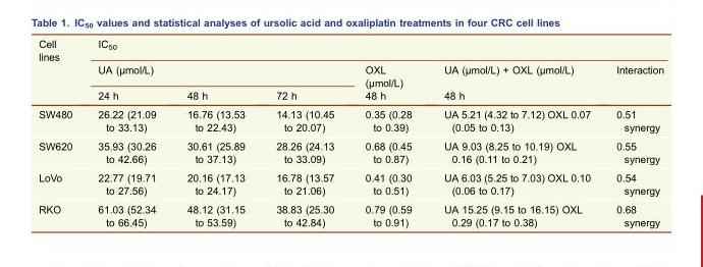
<table><thead><tr><td rowspan="3">Cell lines</td><td colspan="6">IC<sub>50</sub></td></tr><tr><td colspan="3">UA (μmol/L)</td><td rowspan="2">OXL (μmol/L) 48 h</td><td rowspan="2">UA (μmol/L) + OXL (μmol/L) 48 h</td><td rowspan="2">Interaction</td></tr><tr><td>24 h</td><td>48 h</td><td>72 h</td></tr></thead><tbody><tr><td>SW480</td><td>26.22 (21.09 to 33.13)</td><td>16.76 (13.53 to 22.43)</td><td>14.13 (10.45 to 20.07)</td><td>0.35 (0.28 to 0.39)</td><td>UA 5.21 (4.32 to 7.12) OXL 0.07 (0.05 to 0.13)</td><td>0.51 synergy</td></tr><tr><td>SW620</td><td>35.93 (30.26 to 42.66)</td><td>30.61 (25.89 to 37.13)</td><td>28.26 (24.13 to 33.09)</td><td>0.68 (0.45 to 0.87)</td><td>UA 9.03 (8.25 to 10.19) OXL 0.16 (0.11 to 0.21)</td><td>0.55 synergy</td></tr><tr><td>LoVo</td><td>22.77 (19.71 to 27.56)</td><td>20.16 (17.13 to 24.17)</td><td>16.78 (13.57 to 21.06)</td><td>0.41 (0.30 to 0.51)</td><td>UA 6.03 (5.25 to 7.03) OXL 0.10 (0.06 to 0.17)</td><td>0.54 synergy</td></tr><tr><td>RKO</td><td>61.03 (52.34 to 66.45)</td><td>48.12 (31.15 to 53.59)</td><td>38.83 (25.30 to 42.84)</td><td>0.79 (0.59 to 0.91)</td><td>UA 15.25 (9.15 to 16.15) OXL 0.29 (0.17 to 0.38)</td><td>0.68 synergy</td></tr></tbody></table>